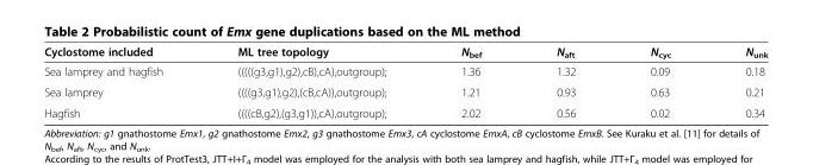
<table><thead><tr><td>Cyclostome included</td><td>ML tree topology</td><td>N<sub>bef</sub></td><td>N<sub>aft</sub></td><td>N<sub>cyc</sub></td><td>N<sub>unk</sub></td></tr></thead><tbody><tr><td>Sea lamprey and hagfish</td><td>(((((g3,g1),g2),cB),cA),outgroup);</td><td>1.36</td><td>1.32</td><td>0.09</td><td>0.18</td></tr><tr><td>Sea lamprey</td><td>((((g3,g1),g2),(cB,cA)),outgroup);</td><td>1.21</td><td>0.93</td><td>0.63</td><td>0.21</td></tr><tr><td>Hagfish</td><td>((((cB,g2),(g3,g1)),cA),outgroup);</td><td>2.02</td><td>0.56</td><td>0.02</td><td>0.34</td></tr></tbody></table>